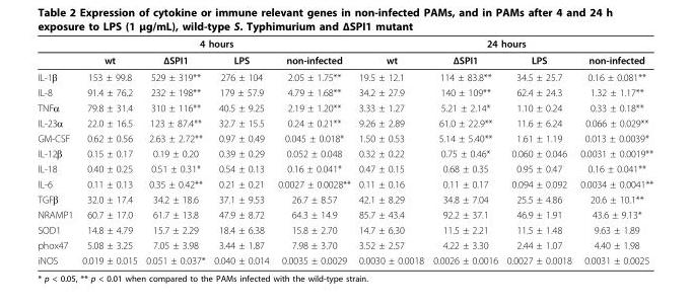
<table><thead><tr><td rowspan="2"></td><td colspan="4">4 hours</td><td colspan="4">24 hours</td></tr><tr><td>wt</td><td>ΔSPI1</td><td>LPS</td><td>non-infected</td><td>wt</td><td>ΔSPI1</td><td>LPS</td><td>non-infected</td></tr></thead><tbody><tr><td>IL-1β</td><td>153 ± 99.8</td><td>529 ± 319**</td><td>276 ± 104</td><td>2.05 ± 1.75**</td><td>19.5 ± 12.1</td><td>114 ± 83.8**</td><td>34.5 ± 25.7</td><td>0.16 ± 0.081**</td></tr><tr><td>IL-8</td><td>91.4 ± 76.2</td><td>232 ± 198**</td><td>179 ± 57.9</td><td>4.79 ± 1.68**</td><td>34.2 ± 27.9</td><td>140 ± 109**</td><td>62.4 ± 24.3</td><td>1.32 ± 1.17**</td></tr><tr><td>TNFα</td><td>79.8 ± 31.4</td><td>310 ± 116**</td><td>40.5 ± 9.25</td><td>2.19 ± 1.20**</td><td>3.33 ± 1.27</td><td>5.21 ± 2.14*</td><td>1.10 ± 0.24</td><td>0.33 ± 0.18**</td></tr><tr><td>IL-23α</td><td>22.0 ± 16.5</td><td>123 ± 87.4**</td><td>32.7 ± 15.5</td><td>0.24 ± 0.21**</td><td>9.26 ± 2.89</td><td>61.0 ± 22.9**</td><td>11.6 ± 6.24</td><td>0.066 ± 0.029**</td></tr><tr><td>GM-CSF</td><td>0.62 ± 0.56</td><td>2.63 ± 2.72**</td><td>0.97 ± 0.49</td><td>0.045 ± 0.018*</td><td>1.50 ± 0.53</td><td>5.14 ± 5.40**</td><td>1.61 ± 1.19</td><td>0.013 ± 0.0039*</td></tr><tr><td>IL-12β</td><td>0.15 ± 0.17</td><td>0.19 ± 0.20</td><td>0.39 ± 0.29</td><td>0.052 ± 0.048</td><td>0.32 ± 0.22</td><td>0.75 ± 0.46*</td><td>0.060 ± 0.046</td><td>0.0031 ± 0.0019**</td></tr><tr><td>IL-18</td><td>0.40 ± 0.25</td><td>0.51 ± 0.31*</td><td>0.54 ± 0.13</td><td>0.16 ± 0.041*</td><td>0.47 ± 0.15</td><td>0.68 ± 0.35</td><td>0.95 ± 0.47</td><td>0.16 ± 0.041**</td></tr><tr><td>IL-6</td><td>0.11 ± 0.13</td><td>0.35 ± 0.42**</td><td>0.21 ± 0.21</td><td>0.0027 ± 0.0028**</td><td>0.11 ± 0.16</td><td>0.11 ± 0.17</td><td>0.094 ± 0.092</td><td>0.0034 ± 0.0041**</td></tr><tr><td>TGFβ</td><td>32.0 ± 17.4</td><td>34.2 ± 18.6</td><td>37.1 ± 9.53</td><td>26.7 ± 8.57</td><td>42.1 ± 8.29</td><td>34.8 ± 7.04</td><td>25.5 ± 4.86</td><td>20.6 ± 10.1**</td></tr><tr><td>NRAMP1</td><td>60.7 ± 17.0</td><td>61.7 ± 13.8</td><td>47.9 ± 8.72</td><td>64.3 ± 14.9</td><td>85.7 ± 43.4</td><td>92.2 ± 37.1</td><td>46.9 ± 1.91</td><td>43.6 ± 9.13*</td></tr><tr><td>SOD1</td><td>14.8 ± 4.79</td><td>15.7 ± 2.29</td><td>18.4 ± 6.38</td><td>15.8 ± 2.70</td><td>14.7 ± 6.30</td><td>11.5 ± 2.21</td><td>11.5 ± 1.48</td><td>9.63 ± 1.89</td></tr><tr><td>phox47</td><td>5.08 ± 3.25</td><td>7.05 ± 3.98</td><td>3.44 ± 1.87</td><td>7.98 ± 3.70</td><td>3.52 ± 2.57</td><td>4.22 ± 3.30</td><td>2.44 ± 1.07</td><td>4.40 ± 1.98</td></tr><tr><td>iNOS</td><td>0.019 ± 0.015</td><td>0.051 ± 0.037*</td><td>0.040 ± 0.014</td><td>0.0035 ± 0.0029</td><td>0.0030 ± 0.0018</td><td>0.0026 ± 0.0016</td><td>0.0027 ± 0.0018</td><td>0.0031 ± 0.0025</td></tr></tbody></table>